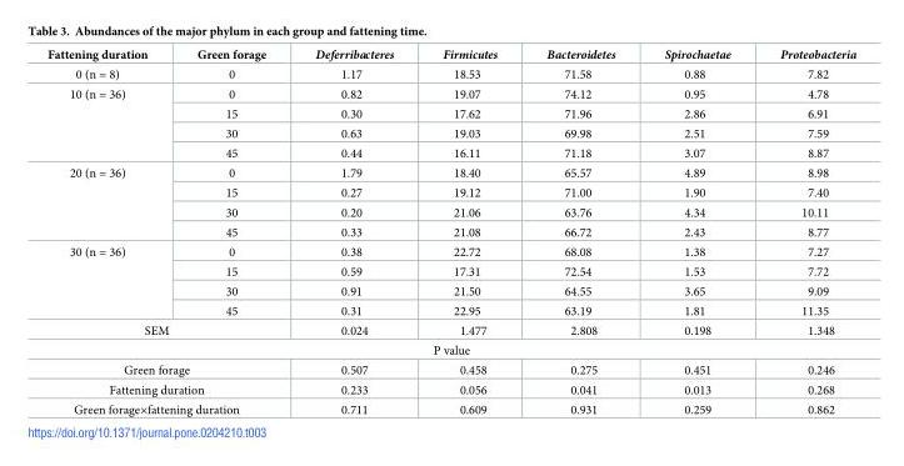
<table><thead><tr><td>Fattening duration</td><td>Green forage</td><td>Deferribacteres</td><td>Firmicutes</td><td>Bacteroidetes</td><td>Spirochaetae</td><td>Proteobacteria</td></tr></thead><tbody><tr><td>0 (n = 8)</td><td>0</td><td>1.17</td><td>18.53</td><td>71.58</td><td>0.88</td><td>7.82</td></tr><tr><td rowspan="4">10 (n = 36)</td><td>0</td><td>0.82</td><td>19.07</td><td>74.12</td><td>0.95</td><td>4.78</td></tr><tr><td>15</td><td>0.30</td><td>17.62</td><td>71.96</td><td>2.86</td><td>6.91</td></tr><tr><td>30</td><td>0.63</td><td>19.03</td><td>69.98</td><td>2.51</td><td>7.59</td></tr><tr><td>45</td><td>0.44</td><td>16.11</td><td>71.18</td><td>3.07</td><td>8.87</td></tr><tr><td rowspan="4">20 (n = 36)</td><td>0</td><td>1.79</td><td>18.40</td><td>65.57</td><td>4.89</td><td>8.98</td></tr><tr><td>15</td><td>0.27</td><td>19.12</td><td>71.00</td><td>1.90</td><td>7.40</td></tr><tr><td>30</td><td>0.20</td><td>21.06</td><td>63.76</td><td>4.34</td><td>10.11</td></tr><tr><td>45</td><td>0.33</td><td>21.08</td><td>66.72</td><td>2.43</td><td>8.77</td></tr><tr><td rowspan="4">30 (n = 36)</td><td>0</td><td>0.38</td><td>22.72</td><td>68.08</td><td>1.38</td><td>7.27</td></tr><tr><td>15</td><td>0.59</td><td>17.31</td><td>72.54</td><td>1.53</td><td>7.72</td></tr><tr><td>30</td><td>0.91</td><td>21.50</td><td>64.55</td><td>3.65</td><td>9.09</td></tr><tr><td>45</td><td>0.31</td><td>22.95</td><td>63.19</td><td>1.81</td><td>11.35</td></tr><tr><td colspan="2">SEM</td><td>0.024</td><td>1.477</td><td>2.808</td><td>0.198</td><td>1.348</td></tr><tr><td colspan="7">P value</td></tr><tr><td colspan="2">Green forage</td><td>0.507</td><td>0.458</td><td>0.275</td><td>0.451</td><td>0.246</td></tr><tr><td colspan="2">Fattening duration</td><td>0.233</td><td>0.056</td><td>0.041</td><td>0.013</td><td>0.268</td></tr><tr><td colspan="2">Green forage×fattening duration</td><td>0.711</td><td>0.609</td><td>0.931</td><td>0.259</td><td>0.862</td></tr></tbody></table>